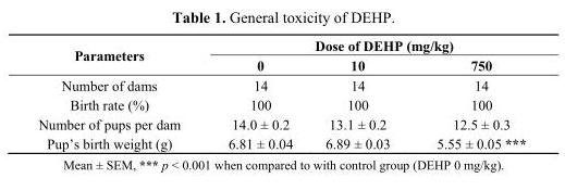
<table><thead><tr><td rowspan="2">Parameters</td><td colspan="3">Dose of DEHP (mg/kg)</td></tr><tr><td>0</td><td>10</td><td>750</td></tr></thead><tbody><tr><td>Number of dams</td><td>14</td><td>14</td><td>14</td></tr><tr><td>Birth rate (%)</td><td>100</td><td>100</td><td>100</td></tr><tr><td>Number of pups per dam</td><td>14.0 ± 0.2</td><td>13.1 ± 0.2</td><td>12.5 ± 0.3</td></tr><tr><td>Pup’s birth weight (g)</td><td>6.81 ± 0.04</td><td>6.89 ± 0.03</td><td>5.55 ± 0.05 ***</td></tr></tbody></table>